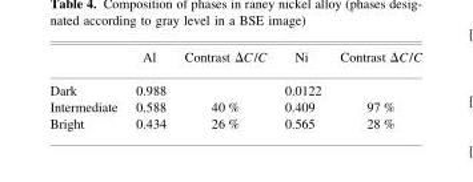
<table><thead><tr><td></td><td>Al</td><td>Contrast ΔC/C</td><td>Ni</td><td>Contrast ΔC/C</td></tr></thead><tbody><tr><td>Dark</td><td>0.988</td><td></td><td>0.0122</td><td></td></tr><tr><td>Intermediate</td><td>0.588</td><td>40 %</td><td>0.409</td><td>97 %</td></tr><tr><td>Bright</td><td>0.434</td><td>26 %</td><td>0.565</td><td>28 %</td></tr></tbody></table>